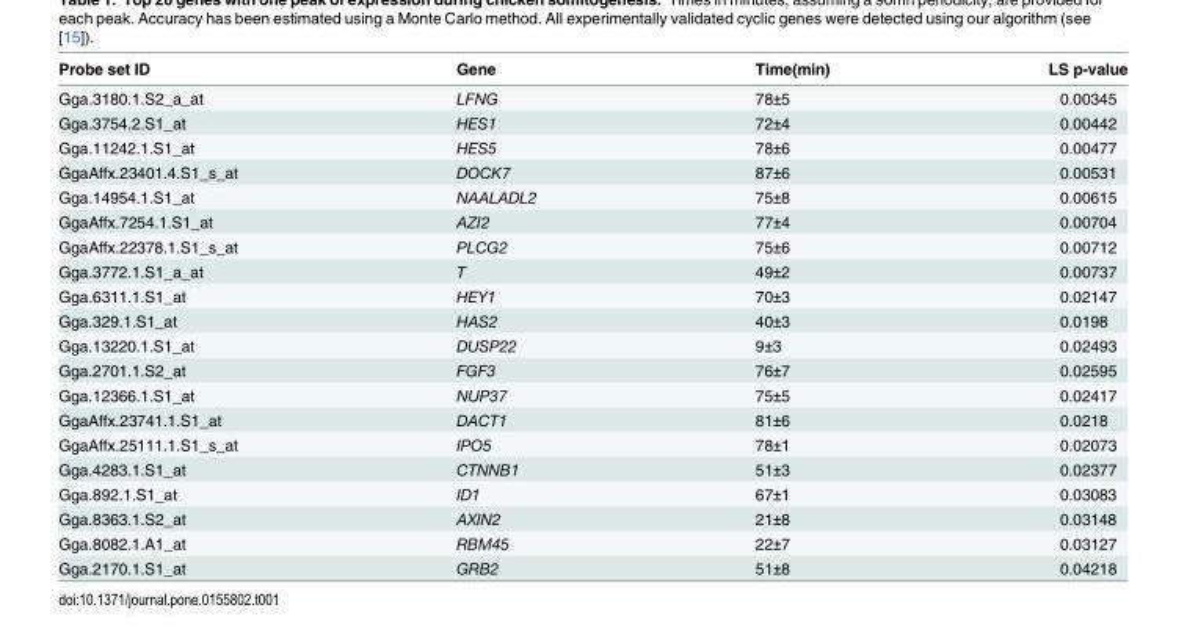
<table><thead><tr><td>Probe set ID</td><td>Gene</td><td>Time(min)</td><td>LS p-value</td></tr></thead><tbody><tr><td>Gga.3180.1.S2_a_at</td><td>LFNG</td><td>78±5</td><td>0.00345</td></tr><tr><td>Gga.3754.2.S1_at</td><td>HES1</td><td>72±4</td><td>0.00442</td></tr><tr><td>Gga.11242.1.S1_at</td><td>HES5</td><td>78±6</td><td>0.00477</td></tr><tr><td>GgaAffx.23401.4.S1_s_at</td><td>DOCK7</td><td>87±6</td><td>0.00531</td></tr><tr><td>Gga.14954.1.S1_at</td><td>NAALADL2</td><td>75±8</td><td>0.00615</td></tr><tr><td>GgaAffx.7254.1.S1_at</td><td>AZI2</td><td>77±4</td><td>0.00704</td></tr><tr><td>GgaAffx.22378.1.S1_s_at</td><td>PLCG2</td><td>75±6</td><td>0.00712</td></tr><tr><td>Gga.3772.1.S1_a_at</td><td>T</td><td>49±2</td><td>0.00737</td></tr><tr><td>Gga.6311.1.S1_at</td><td>HEY1</td><td>70±3</td><td>0.02147</td></tr><tr><td>Gga.329.1.S1_at</td><td>HAS2</td><td>40±3</td><td>0.0198</td></tr><tr><td>Gga.13220.1.S1_at</td><td>DUSP22</td><td>9±3</td><td>0.02493</td></tr><tr><td>Gga.2701.1.S2_at</td><td>FGF3</td><td>76±7</td><td>0.02595</td></tr><tr><td>Gga.12366.1.S1_at</td><td>NUP37</td><td>75±5</td><td>0.02417</td></tr><tr><td>GgaAffx.23741.1.S1_at</td><td>DACT1</td><td>81±6</td><td>0.0218</td></tr><tr><td>GgaAffx.25111.1.S1_s_at</td><td>IPO5</td><td>78±1</td><td>0.02073</td></tr><tr><td>Gga.4283.1.S1_at</td><td>CTNNB1</td><td>51±3</td><td>0.02377</td></tr><tr><td>Gga.892.1.S1_at</td><td>ID1</td><td>67±1</td><td>0.03083</td></tr><tr><td>Gga.8363.1.S2_at</td><td>AXIN2</td><td>21±8</td><td>0.03148</td></tr><tr><td>Gga.8082.1.A1_at</td><td>RBM45</td><td>22±7</td><td>0.03127</td></tr><tr><td>Gga.2170.1.S1_at</td><td>GRB2</td><td>51±8</td><td>0.04218</td></tr></tbody></table>